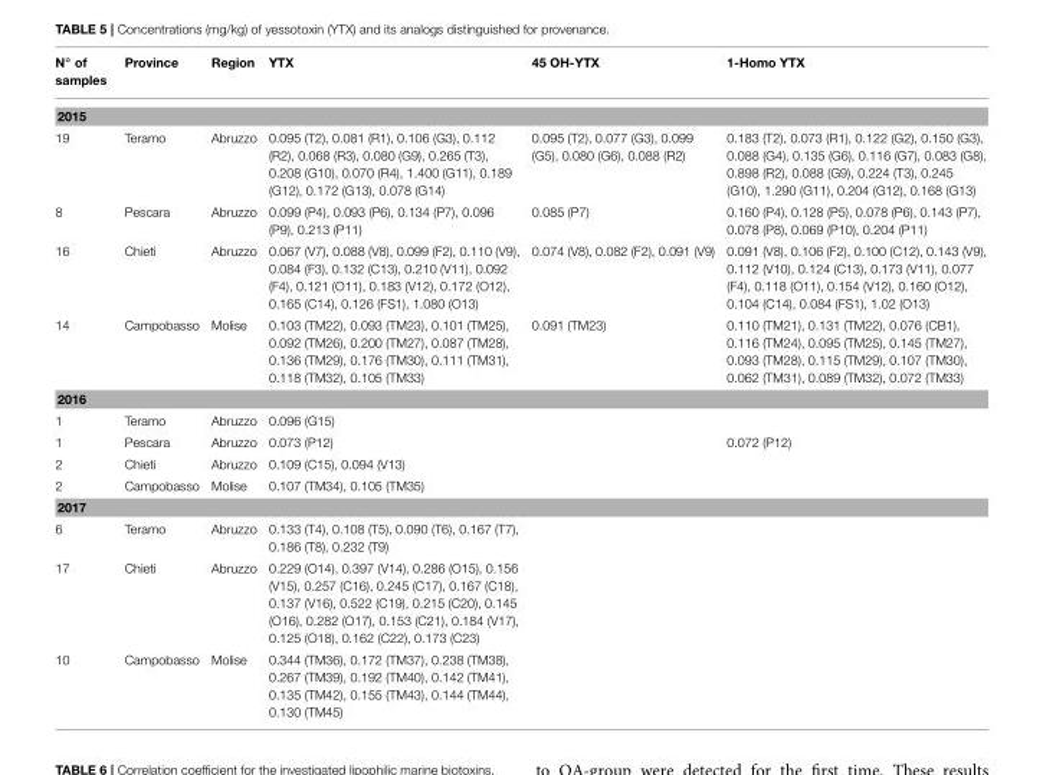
<table><thead><tr><td>N◦ of samples</td><td>Province</td><td>Region</td><td>YTX</td><td>45 OH-YTX</td><td>1-Homo YTX</td></tr></thead><tbody><tr><td colspan="6">2015</td></tr><tr><td>19</td><td>Teramo</td><td>Abruzzo</td><td>0.095 (T2), 0.081 (R1), 0.106 (G3), 0.112 (R2), 0.068 (R3), 0.080 (G9), 0.265 (T3), 0.208 (G10), 0.070 (R4), 1.400 (G11), 0.189 (G12), 0.172 (G13), 0.078 (G14)</td><td>0.095 (T2), 0.077 (G3), 0.099 (G5), 0.080 (G6), 0.088 (R2)</td><td>0.183 (T2), 0.073 (R1), 0.122 (G2), 0.150 (G3), 0.088 (G4), 0.135 (G6), 0.116 (G7), 0.083 (G8), 0.898 (R2), 0.088 (G9), 0.224 (T3), 0.245 (G10), 1.290 (G11), 0.204 (G12), 0.168 (G13)</td></tr><tr><td>8</td><td>Pescara</td><td>Abruzzo</td><td>0.099 (P4), 0.093 (P6), 0.134 (P7), 0.096 (P9), 0.213 (P11)</td><td>0.085 (P7)</td><td>0.160 (P4), 0.128 (P5), 0.078 (P6), 0.143 (P7), 0.078 (P8), 0.069 (P10), 0.204 (P11)</td></tr><tr><td>16</td><td>Chieti</td><td>Abruzzo</td><td>0.067 (V7), 0.088 (V8), 0.099 (F2), 0.110 (V9), 0.084 (F3), 0.132 (C13), 0.210 (V11), 0.092 (F4), 0.121 (O11), 0.183 (V12), 0.172 (O12), 0.165 (C14), 0.126 (FS1), 1.080 (O13)</td><td>0.074 (V8), 0.082 (F2), 0.091 (V9)</td><td>0.091 (V8), 0.106 (F2), 0.100 (C12), 0.143 (V9), 0.112 (V10), 0.124 (C13), 0.173 (V11), 0.077 (F4), 0.118 (O11), 0.154 (V12), 0.160 (O12), 0.104 (C14), 0.084 (FS1), 1.02 (O13)</td></tr><tr><td>14</td><td>Campobasso</td><td>Molise</td><td>0.103 (TM22), 0.093 (TM23), 0.101 (TM25), 0.092 (TM26), 0.200 (TM27), 0.087 (TM28), 0.136 (TM29), 0.176 (TM30), 0.111 (TM31), 0.118 (TM32), 0.105 (TM33)</td><td>0.091 (TM23)</td><td>0.110 (TM21), 0.131 (TM22), 0.076 (CB1), 0.116 (TM24), 0.095 (TM25), 0.145 (TM27), 0.093 (TM28), 0.115 (TM29), 0.107 (TM30), 0.062 (TM31), 0.089 (TM32), 0.072 (TM33)</td></tr><tr><td colspan="6">2016</td></tr><tr><td>1</td><td>Teramo</td><td>Abruzzo</td><td>0.096 (G15)</td><td></td><td></td></tr><tr><td>1</td><td>Pescara</td><td>Abruzzo</td><td>0.073 (P12)</td><td></td><td>0.072 (P12)</td></tr><tr><td>2</td><td>Chieti</td><td>Abruzzo</td><td>0.109 (C15), 0.094 (V13)</td><td></td><td></td></tr><tr><td>2</td><td>Campobasso</td><td>Molise</td><td>0.107 (TM34), 0.105 (TM35)</td><td></td><td></td></tr><tr><td colspan="6">2017</td></tr><tr><td>6</td><td>Teramo</td><td>Abruzzo</td><td>0.133 (T4), 0.108 (T5), 0.090 (T6), 0.167 (T7), 0.186 (T8), 0.232 (T9)</td><td></td><td></td></tr><tr><td>17</td><td>Chieti</td><td>Abruzzo</td><td>0.229 (O14), 0.397 (V14), 0.286 (O15), 0.156 (V15), 0.257 (C16), 0.245 (C17), 0.167 (C18), 0.137 (V16), 0.522 (C19), 0.215 (C20), 0.145 (O16), 0.282 (O17), 0.153 (C21), 0.184 (V17), 0.125 (O18), 0.162 (C22), 0.173 (C23)</td><td></td><td></td></tr><tr><td>10</td><td>Campobasso</td><td>Molise</td><td>0.344 (TM36), 0.172 (TM37), 0.238 (TM38), 0.267 (TM39), 0.192 (TM40), 0.142 (TM41), 0.135 (TM42), 0.155 (TM43), 0.144 (TM44), 0.130 (TM45)</td><td></td><td></td></tr></tbody></table>